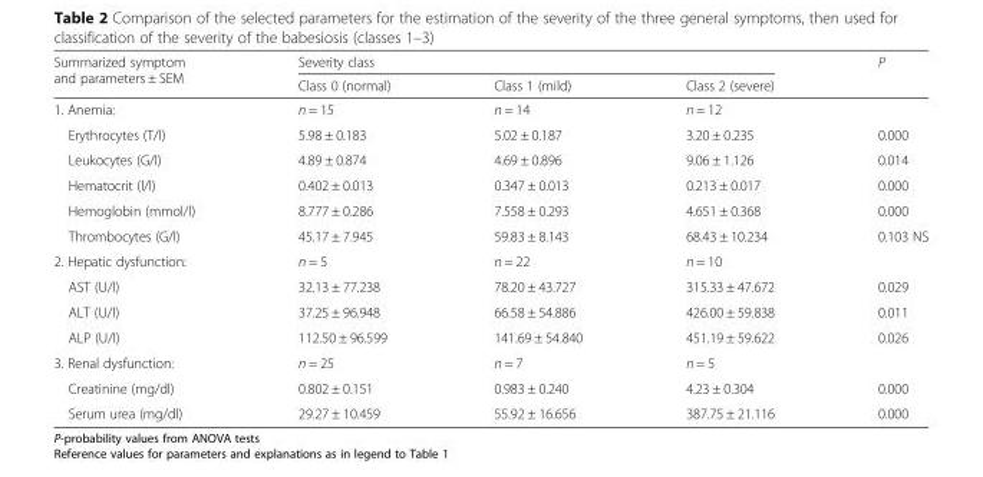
<table><thead><tr><td rowspan="2">Summarized symptom and parameters ± SEM</td><td colspan="3">Severity class</td><td rowspan="2">P</td></tr><tr><td>Class 0 (normal)</td><td>Class 1 (mild)</td><td>Class 2 (severe)</td></tr></thead><tbody><tr><td>1. Anemia:</td><td>n = 15</td><td>n = 14</td><td>n = 12</td><td></td></tr><tr><td>Erythrocytes (T/l)</td><td>5.98 ± 0.183</td><td>5.02 ± 0.187</td><td>3.20 ± 0.235</td><td>0.000</td></tr><tr><td>Leukocytes (G/l)</td><td>4.89 ± 0.874</td><td>4.69 ± 0.896</td><td>9.06 ± 1.126</td><td>0.014</td></tr><tr><td>Hematocrit (l/l)</td><td>0.402 ± 0.013</td><td>0.347 ± 0.013</td><td>0.213 ± 0.017</td><td>0.000</td></tr><tr><td>Hemoglobin (mmol/l)</td><td>8.777 ± 0.286</td><td>7.558 ± 0.293</td><td>4.651 ± 0.368</td><td>0.000</td></tr><tr><td>Thrombocytes (G/l)</td><td>45.17 ± 7.945</td><td>59.83 ± 8.143</td><td>68.43 ± 10.234</td><td>0.103 NS</td></tr><tr><td>2. Hepatic dysfunction:</td><td>n = 5</td><td>n = 22</td><td>n = 10</td><td></td></tr><tr><td>AST (U/l)</td><td>32.13 ± 77.238</td><td>78.20 ± 43.727</td><td>315.33 ± 47.672</td><td>0.029</td></tr><tr><td>ALT (U/l)</td><td>37.25 ± 96.948</td><td>66.58 ± 54.886</td><td>426.00 ± 59.838</td><td>0.011</td></tr><tr><td>ALP (U/l)</td><td>112.50 ± 96.599</td><td>141.69 ± 54.840</td><td>451.19 ± 59.622</td><td>0.026</td></tr><tr><td>3. Renal dysfunction:</td><td>n = 25</td><td>n = 7</td><td>n = 5</td><td></td></tr><tr><td>Creatinine (mg/dl)</td><td>0.802 ± 0.151</td><td>0.983 ± 0.240</td><td>4.23 ± 0.304</td><td>0.000</td></tr><tr><td>Serum urea (mg/dl)</td><td>29.27 ± 10.459</td><td>55.92 ± 16.656</td><td>387.75 ± 21.116</td><td>0.000</td></tr></tbody></table>